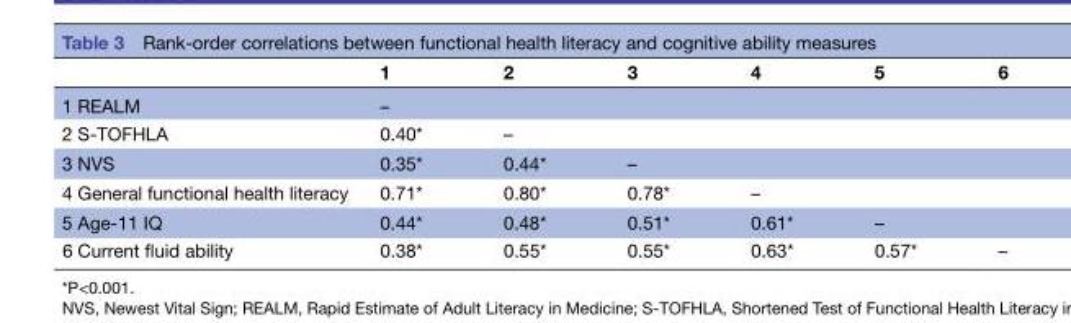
<table><thead><tr><td></td><td>1</td><td>2</td><td>3</td><td>4</td><td>5</td><td>6</td></tr></thead><tbody><tr><td>1 REALM</td><td>–</td><td></td><td></td><td></td><td></td><td></td></tr><tr><td>2 S-TOFHLA</td><td>0.40*</td><td>–</td><td></td><td></td><td></td><td></td></tr><tr><td>3 NVS</td><td>0.35*</td><td>0.44*</td><td>–</td><td></td><td></td><td></td></tr><tr><td>4 General functional health literacy</td><td>0.71*</td><td>0.80*</td><td>0.78*</td><td>–</td><td></td><td></td></tr><tr><td>5 Age-11 IQ</td><td>0.44*</td><td>0.48*</td><td>0.51*</td><td>0.61*</td><td>–</td><td></td></tr><tr><td>6 Current fluid ability</td><td>0.38*</td><td>0.55*</td><td>0.55*</td><td>0.63*</td><td>0.57*</td><td>–</td></tr></tbody></table>